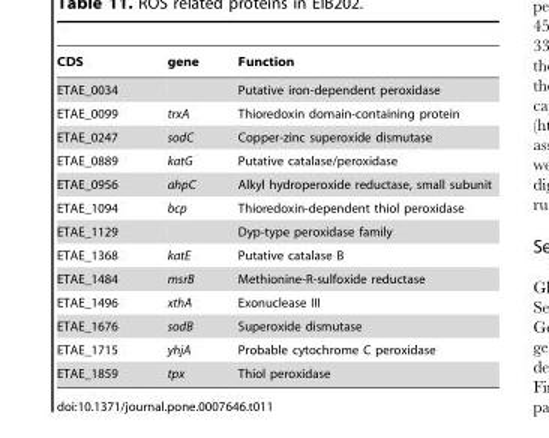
<table><thead><tr><td>CDS</td><td>gene</td><td>Function</td></tr></thead><tbody><tr><td>ETAE_0034</td><td></td><td>Putative iron-dependent peroxidase</td></tr><tr><td>ETAE_0099</td><td>trxA</td><td>Thioredoxin domain-containing protein</td></tr><tr><td>ETAE_0247</td><td>sodC</td><td>Copper-zinc superoxide dismutase</td></tr><tr><td>ETAE_0889</td><td>katG</td><td>Putative catalase/peroxidase</td></tr><tr><td>ETAE_0956</td><td>ahpC</td><td>Alkyl hydroperoxide reductase, small subunit</td></tr><tr><td>ETAE_1094</td><td>bcp</td><td>Thioredoxin-dependent thiol peroxidase</td></tr><tr><td>ETAE_1129</td><td></td><td>Dyp-type peroxidase family</td></tr><tr><td>ETAE_1368</td><td>katE</td><td>Putative catalase B</td></tr><tr><td>ETAE_1484</td><td>msrB</td><td>Methionine-R-sulfoxide reductase</td></tr><tr><td>ETAE_1496</td><td>xthA</td><td>Exonuclease III</td></tr><tr><td>ETAE_1676</td><td>sodB</td><td>Superoxide dismutase</td></tr><tr><td>ETAE_1715</td><td>yhjA</td><td>Probable cytochrome C peroxidase</td></tr><tr><td>ETAE_1859</td><td>tpx</td><td>Thiol peroxidase</td></tr></tbody></table>